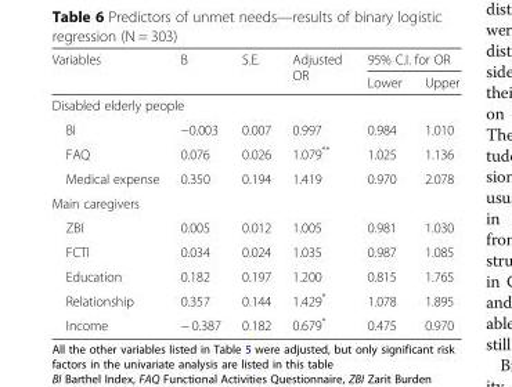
<table><thead><tr><td rowspan="2">Variables</td><td rowspan="2">B</td><td rowspan="2">S.E.</td><td rowspan="2">Adjusted OR</td><td colspan="2">95% C.I. for OR</td></tr><tr><td>Lower</td><td>Upper</td></tr></thead><tbody><tr><td colspan="6">Disabled elderly people</td></tr><tr><td>BI</td><td>−0.003</td><td>0.007</td><td>0.997</td><td>0.984</td><td>1.010</td></tr><tr><td>FAQ</td><td>0.076</td><td>0.026</td><td>1.079**</td><td>1.025</td><td>1.136</td></tr><tr><td>Medical expense</td><td>0.350</td><td>0.194</td><td>1.419</td><td>0.970</td><td>2.078</td></tr><tr><td colspan="6">Main caregivers</td></tr><tr><td>ZBI</td><td>0.005</td><td>0.012</td><td>1.005</td><td>0.981</td><td>1.030</td></tr><tr><td>FCTI</td><td>0.034</td><td>0.024</td><td>1.035</td><td>0.987</td><td>1.085</td></tr><tr><td>Education</td><td>0.182</td><td>0.197</td><td>1.200</td><td>0.815</td><td>1.765</td></tr><tr><td>Relationship</td><td>0.357</td><td>0.144</td><td>1.429*</td><td>1.078</td><td>1.895</td></tr><tr><td>Income</td><td>− 0.387</td><td>0.182</td><td>0.679*</td><td>0.475</td><td>0.970</td></tr></tbody></table>